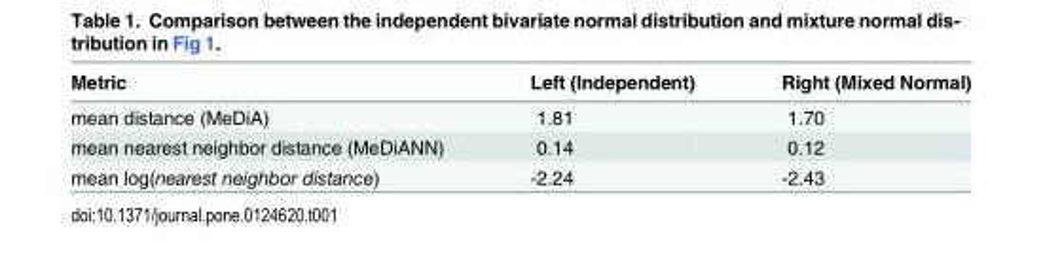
<table><thead><tr><td>Metric</td><td>Left (Independent)</td><td>Right (Mixed Normal)</td></tr></thead><tbody><tr><td>mean distance (MeDiA)</td><td>1.81</td><td>1.70</td></tr><tr><td>mean nearest neighbor distance (MeDiANN)</td><td>0.14</td><td>0.12</td></tr><tr><td>mean log(nearest neighbor distance)</td><td>-2.24</td><td>-2.43</td></tr></tbody></table>